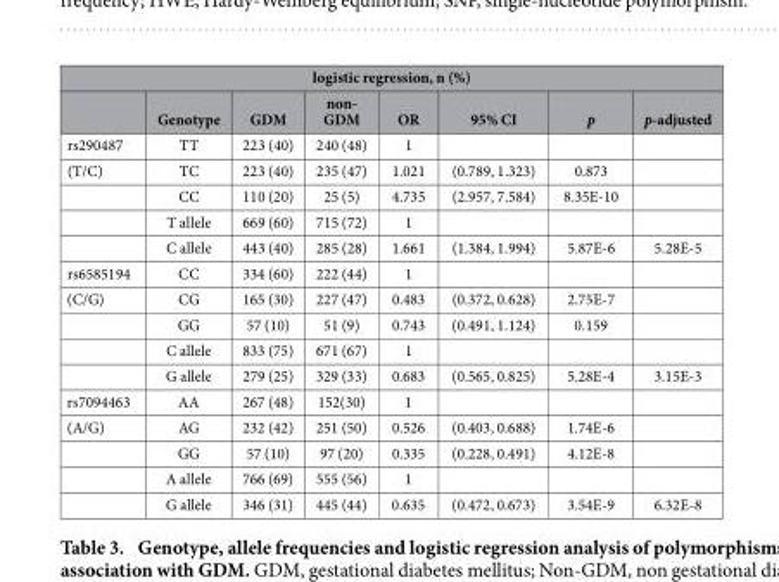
<table><thead><tr><td colspan="8">logistic regression, n (%)</td></tr><tr><td></td><td>Genotype</td><td>GDM</td><td>non- GDM</td><td>OR</td><td>95% CI</td><td>p</td><td>p-adjusted</td></tr></thead><tbody><tr><td>rs290487</td><td>TT</td><td>223 (40)</td><td>240 (48)</td><td>1</td><td></td><td></td><td></td></tr><tr><td rowspan="4">(T/C)</td><td>TC</td><td>223 (40)</td><td>235 (47)</td><td>1.021</td><td>(0.789, 1.323)</td><td>0.873</td><td></td></tr><tr><td>CC</td><td>110 (20)</td><td>25 (5)</td><td>4.735</td><td>(2.957, 7.584)</td><td>8.35E-10</td><td></td></tr><tr><td>T allele</td><td>669 (60)</td><td>715 (72)</td><td>1</td><td></td><td></td><td></td></tr><tr><td>C allele</td><td>443 (40)</td><td>285 (28)</td><td>1.661</td><td>(1.384, 1.994)</td><td>5.87E-6</td><td>5.28E-5</td></tr><tr><td>rs6585194</td><td>CC</td><td>334 (60)</td><td>222 (44)</td><td>1</td><td></td><td></td><td></td></tr><tr><td rowspan="4">(C/G)</td><td>CG</td><td>165 (30)</td><td>227 (47)</td><td>0.483</td><td>(0.372, 0.628)</td><td>2.75E-7</td><td></td></tr><tr><td>GG</td><td>57 (10)</td><td>51 (9)</td><td>0.743</td><td>(0.491, 1.124)</td><td>0.159</td><td></td></tr><tr><td>C allele</td><td>833 (75)</td><td>671 (67)</td><td>1</td><td></td><td></td><td></td></tr><tr><td>G allele</td><td>279 (25)</td><td>329 (33)</td><td>0.683</td><td>(0.565, 0.825)</td><td>5.28E-4</td><td>3.15E-3</td></tr><tr><td>rs7094463</td><td>AA</td><td>267 (48)</td><td>152(30)</td><td>1</td><td></td><td></td><td></td></tr><tr><td rowspan="4">(A/G)</td><td>AG</td><td>232 (42)</td><td>251 (50)</td><td>0.526</td><td>(0.403, 0.688)</td><td>1.74E-6</td><td></td></tr><tr><td>GG</td><td>57 (10)</td><td>97 (20)</td><td>0.335</td><td>(0.228, 0.491)</td><td>4.12E-8</td><td></td></tr><tr><td>A allele</td><td>766 (69)</td><td>555 (56)</td><td>1</td><td></td><td></td><td></td></tr><tr><td>G allele</td><td>346 (31)</td><td>445 (44)</td><td>0.635</td><td>(0.472, 0.673)</td><td>3.54E-9</td><td>6.32E-8</td></tr></tbody></table>